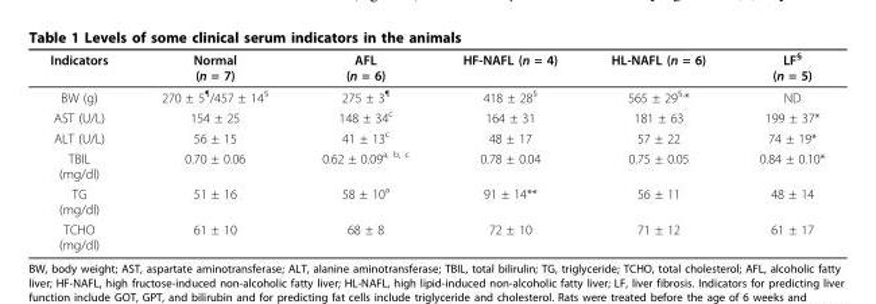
<table><thead><tr><td>Indicators</td><td>Normal (n = 7)</td><td>AFL (n = 6)</td><td>HF-NAFL (n = 4)</td><td>HL-NAFL (n = 6)</td><td>LF<sup>§</sup> (n = 5)</td></tr></thead><tbody><tr><td>BW (g)</td><td>270 ± 5<sup>¶</sup>/457 ± 14<sup>§</sup></td><td>275 ± 3<sup>¶</sup></td><td>418 ± 28<sup>§</sup></td><td>565 ± 29<sup>§,</sup>*</td><td>ND</td></tr><tr><td>AST (U/L)</td><td>154 ± 25</td><td>148 ± 34<sup>c</sup></td><td>164 ± 31</td><td>181 ± 63</td><td>199 ± 37*</td></tr><tr><td>ALT (U/L)</td><td>56 ± 15</td><td>41 ± 13<sup>c</sup></td><td>48 ± 17</td><td>57 ± 22</td><td>74 ± 19*</td></tr><tr><td>TBIL (mg/dl)</td><td>0.70 ± 0.06</td><td>0.62 ± 0.09<sup>a, b, c</sup></td><td>0.78 ± 0.04</td><td>0.75 ± 0.05</td><td>0.84 ± 0.10*</td></tr><tr><td>TG (mg/dl)</td><td>51 ± 16</td><td>58 ± 10<sup>a</sup></td><td>91 ± 14**</td><td>56 ± 11</td><td>48 ± 14</td></tr><tr><td>TCHO (mg/dl)</td><td>61 ± 10</td><td>68 ± 8</td><td>72 ± 10</td><td>71 ± 12</td><td>61 ± 17</td></tr></tbody></table>